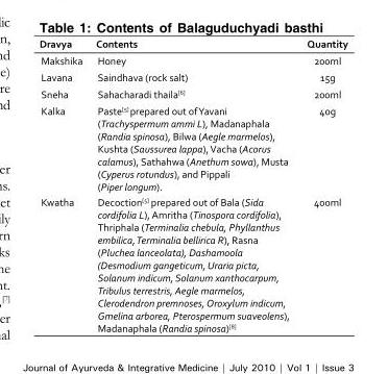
<table><thead><tr><td>Dravya</td><td>Contents</td><td>Quantity</td></tr></thead><tbody><tr><td>Makshika</td><td>Honey</td><td>200ml</td></tr><tr><td>Lavana</td><td>Saindhava (rock salt)</td><td>15g</td></tr><tr><td>Sneha</td><td>Sahacharadi thaila[6]</td><td>200ml</td></tr><tr><td>Kalka</td><td>Paste[5] prepared out of Yavani (Trachyspermum ammi L), Madanaphala (Randia spinosa), Bilwa (Aegle marmelos), Kushta (Saussurea lappa), Vacha (Acorus calamus), Sathahwa (Anethum sowa), Musta (Cyperus rotundus), and Pippali (Piper longum).</td><td>40g</td></tr><tr><td>Kwatha</td><td>Decoction[5] prepared out of Bala (Sida cordifolia L), Amritha (Tinospora cordifolia), Thriphala (Terminalia chebula, Phyllanthus embilica, Terminalia bellirica R), Rasna (Pluchea lanceolata), Dashamoola (Desmodium gangeticum, Uraria picta, Solanum indicum, Solanum xanthocarpum, Tribulus terrestris, Aegle marmelos, Clerodendron premnoses, Oroxylum indicum, Gmelina arborea, Pterospermum suaveolens), Madanaphala (Randia spinosa)[8]</td><td>400ml</td></tr></tbody></table>